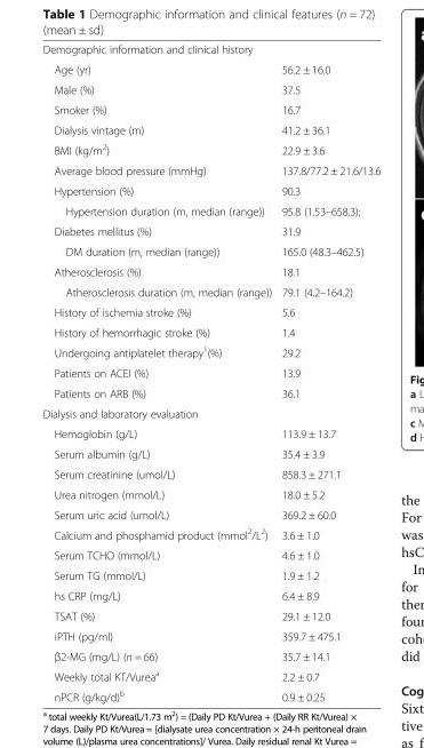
<table><tbody><tr><td colspan="2">Demographic information and clinical history</td></tr><tr><td>Age (yr)</td><td>56.2 ± 16.0</td></tr><tr><td>Male (%)</td><td>37.5</td></tr><tr><td>Smoker (%)</td><td>16.7</td></tr><tr><td>Dialysis vintage (m)</td><td>41.2 ± 36.1</td></tr><tr><td>BMI (kg/m<sup>2</sup>)</td><td>22.9 ± 3.6</td></tr><tr><td>Average blood pressure (mmHg)</td><td>137.8/77.2 ± 21.6/13.6</td></tr><tr><td>Hypertension (%)</td><td>90.3</td></tr><tr><td>Hypertension duration (m, median (range))</td><td>95.8 (1.53–658.3);</td></tr><tr><td>Diabetes mellitus (%)</td><td>31.9</td></tr><tr><td>DM duration (m, median (range))</td><td>165.0 (48.3–462.5)</td></tr><tr><td>Atherosclerosis (%)</td><td>18.1</td></tr><tr><td>Atherosclerosis duration (m, median (range))</td><td>79.1 (4.2–164.2)</td></tr><tr><td>History of ischemia stroke (%)</td><td>5.6</td></tr><tr><td>History of hemorrhagic stroke (%)</td><td>1.4</td></tr><tr><td>Undergoing antiplatelet therapy<sup>1</sup>(%)</td><td>29.2</td></tr><tr><td>Patients on ACEI (%)</td><td>13.9</td></tr><tr><td>Patients on ARB (%)</td><td>36.1</td></tr><tr><td colspan="2">Dialysis and laboratory evaluation</td></tr><tr><td>Hemoglobin (g/L)</td><td>113.9 ± 13.7</td></tr><tr><td>Serum albumin (g/L)</td><td>35.4 ± 3.9</td></tr><tr><td>Serum creatinine (umol/L)</td><td>858.3 ± 271.1</td></tr><tr><td>Urea nitrogen (mmol/L)</td><td>18.0 ± 5.2</td></tr><tr><td>Serum uric acid (umol/L)</td><td>369.2 ± 60.0</td></tr><tr><td>Calcium and phosphamid product (mmol<sup>2</sup>/L<sup>2</sup>)</td><td>3.6 ± 1.0</td></tr><tr><td>Serum TCHO (mmol/L)</td><td>4.6 ± 1.0</td></tr><tr><td>Serum TG (mmol/L)</td><td>1.9 ± 1.2</td></tr><tr><td>hs CRP (mg/L)</td><td>6.4 ± 8.9</td></tr><tr><td>TSAT (%)</td><td>29.1 ± 12.0</td></tr><tr><td>iPTH (pg/ml)</td><td>359.7 ± 475.1</td></tr><tr><td>β2-MG (mg/L) (n = 66)</td><td>35.7 ± 14.1</td></tr><tr><td>Weekly total KT/Vurea<sup>a</sup></td><td>2.2 ± 0.7</td></tr><tr><td>nPCR (g/kg/d)<sup>b</sup></td><td>0.9 ± 0.25</td></tr></tbody></table>